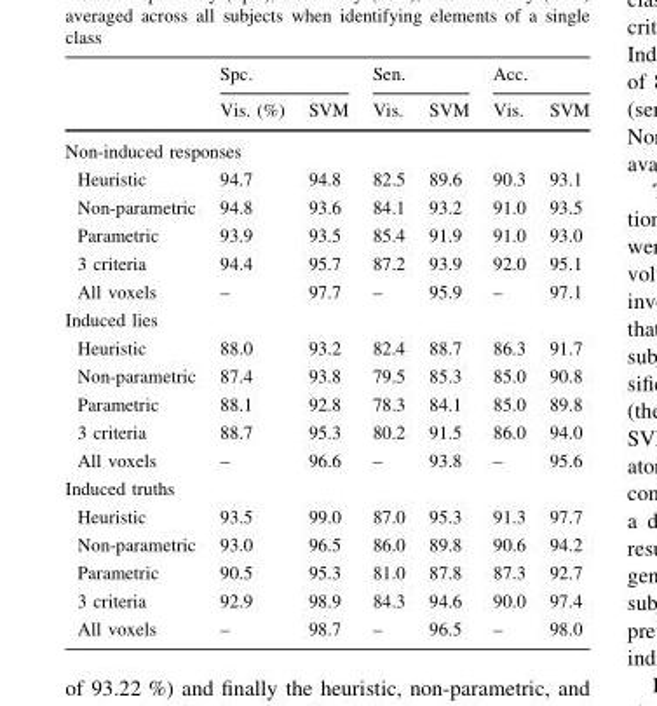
<table><thead><tr><td rowspan="2"></td><td colspan="2">Spc.</td><td colspan="2">Sen.</td><td colspan="2">Acc.</td></tr><tr><td>Vis. (%)</td><td>SVM</td><td>Vis.</td><td>SVM</td><td>Vis.</td><td>SVM</td></tr></thead><tbody><tr><td colspan="7">Non-induced responses</td></tr><tr><td>Heuristic</td><td>94.7</td><td>94.8</td><td>82.5</td><td>89.6</td><td>90.3</td><td>93.1</td></tr><tr><td>Non-parametric</td><td>94.8</td><td>93.6</td><td>84.1</td><td>93.2</td><td>91.0</td><td>93.5</td></tr><tr><td>Parametric</td><td>93.9</td><td>93.5</td><td>85.4</td><td>91.9</td><td>91.0</td><td>93.0</td></tr><tr><td>3 criteria</td><td>94.4</td><td>95.7</td><td>87.2</td><td>93.9</td><td>92.0</td><td>95.1</td></tr><tr><td>All voxels</td><td>–</td><td>97.7</td><td>–</td><td>95.9</td><td>–</td><td>97.1</td></tr><tr><td colspan="7">Induced lies</td></tr><tr><td>Heuristic</td><td>88.0</td><td>93.2</td><td>82.4</td><td>88.7</td><td>86.3</td><td>91.7</td></tr><tr><td>Non-parametric</td><td>87.4</td><td>93.8</td><td>79.5</td><td>85.3</td><td>85.0</td><td>90.8</td></tr><tr><td>Parametric</td><td>88.1</td><td>92.8</td><td>78.3</td><td>84.1</td><td>85.0</td><td>89.8</td></tr><tr><td>3 criteria</td><td>88.7</td><td>95.3</td><td>80.2</td><td>91.5</td><td>86.0</td><td>94.0</td></tr><tr><td>All voxels</td><td>–</td><td>96.6</td><td>–</td><td>93.8</td><td>–</td><td>95.6</td></tr><tr><td colspan="7">Induced truths</td></tr><tr><td>Heuristic</td><td>93.5</td><td>99.0</td><td>87.0</td><td>95.3</td><td>91.3</td><td>97.7</td></tr><tr><td>Non-parametric</td><td>93.0</td><td>96.5</td><td>86.0</td><td>89.8</td><td>90.6</td><td>94.2</td></tr><tr><td>Parametric</td><td>90.5</td><td>95.3</td><td>81.0</td><td>87.8</td><td>87.3</td><td>92.7</td></tr><tr><td>3 criteria</td><td>92.9</td><td>98.9</td><td>84.3</td><td>94.6</td><td>90.0</td><td>97.4</td></tr><tr><td>All voxels</td><td>–</td><td>98.7</td><td>–</td><td>96.5</td><td>–</td><td>98.0</td></tr></tbody></table>